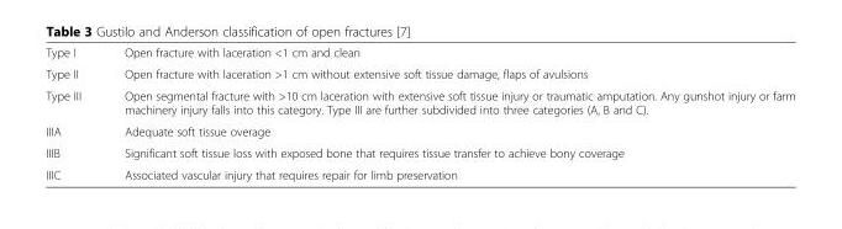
<table><tbody><tr><td>Type I</td><td>Open fracture with laceration &lt;1 cm and clean</td></tr><tr><td>Type II</td><td>Open fracture with laceration &gt;1 cm without extensive soft tissue damage, flaps of avulsions</td></tr><tr><td>Type III</td><td>Open segmental fracture with &gt;10 cm laceration with extensive soft tissue injury or traumatic amputation. Any gunshot injury or farm machinery injury falls into this category. Type III are further subdivided into three categories (A, B and C).</td></tr><tr><td>IIIA</td><td>Adequate soft tissue overage</td></tr><tr><td>IIIB</td><td>Significant soft tissue loss with exposed bone that requires tissue transfer to achieve bony coverage</td></tr><tr><td>IIIC</td><td>Associated vascular injury that requires repair for limb preservation</td></tr></tbody></table>